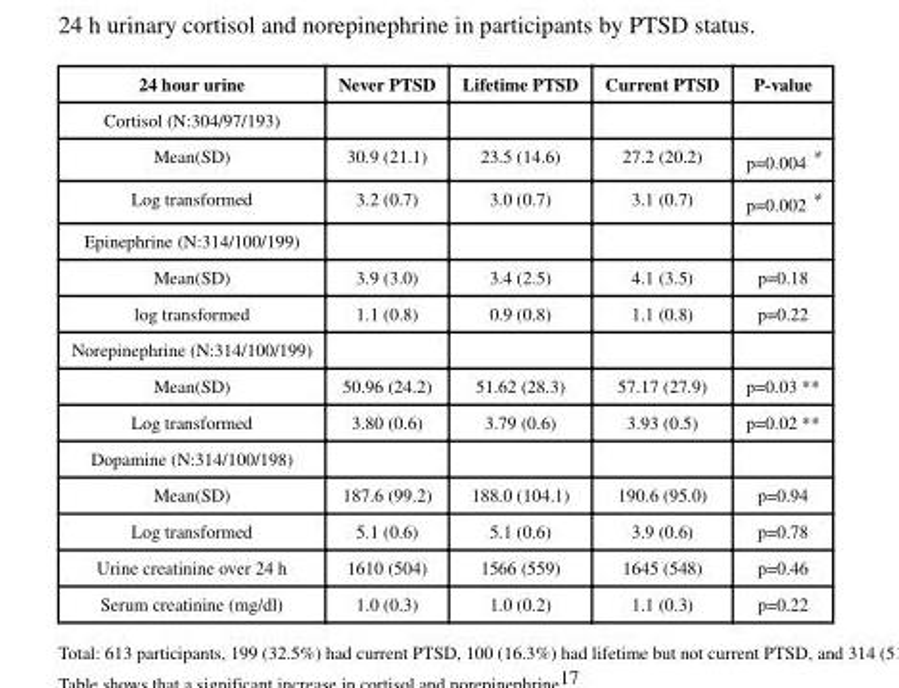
<table><thead><tr><td>24 hour urine</td><td>Never PTSD</td><td>Lifetime PTSD</td><td>Current PTSD</td><td>P-value</td></tr></thead><tbody><tr><td colspan="5">Cortisol (N:304/97/193)</td></tr><tr><td>Mean(SD)</td><td>30.9 (21.1)</td><td>23.5 (14.6)</td><td>27.2 (20.2)</td><td>p=0.004 *</td></tr><tr><td>Log transformed</td><td>3.2 (0.7)</td><td>3.0 (0.7)</td><td>3.1 (0.7)</td><td>p=0.002 *</td></tr><tr><td colspan="5">Epinephrine (N:314/100/199)</td></tr><tr><td>Mean(SD)</td><td>3.9 (3.0)</td><td>3.4 (2.5)</td><td>4.1 (3.5)</td><td>p=0.18</td></tr><tr><td>log transformed</td><td>1.1 (0.8)</td><td>0.9 (0.8)</td><td>1.1 (0.8)</td><td>p=0.22</td></tr><tr><td colspan="5">Norepinephrine (N:314/100/199)</td></tr><tr><td>Mean(SD)</td><td>50.96 (24.2)</td><td>51.62 (28.3)</td><td>57.17 (27.9)</td><td>p=0.03 **</td></tr><tr><td>Log transformed</td><td>3.80 (0.6)</td><td>3.79 (0.6)</td><td>3.93 (0.5)</td><td>p=0.02 **</td></tr><tr><td colspan="5">Dopamine (N:314/100/198)</td></tr><tr><td>Mean(SD)</td><td>187.6 (99.2)</td><td>188.0 (104.1)</td><td>190.6 (95.0)</td><td>p=0.94</td></tr><tr><td>Log transformed</td><td>5.1 (0.6)</td><td>5.1 (0.6)</td><td>3.9 (0.6)</td><td>p=0.78</td></tr><tr><td>Urine creatinine over 24 h</td><td>1610 (504)</td><td>1566 (559)</td><td>1645 (548)</td><td>p=0.46</td></tr><tr><td>Serum creatinine (mg/dl)</td><td>1.0 (0.3)</td><td>1.0 (0.2)</td><td>1.1 (0.3)</td><td>p=0.22</td></tr></tbody></table>